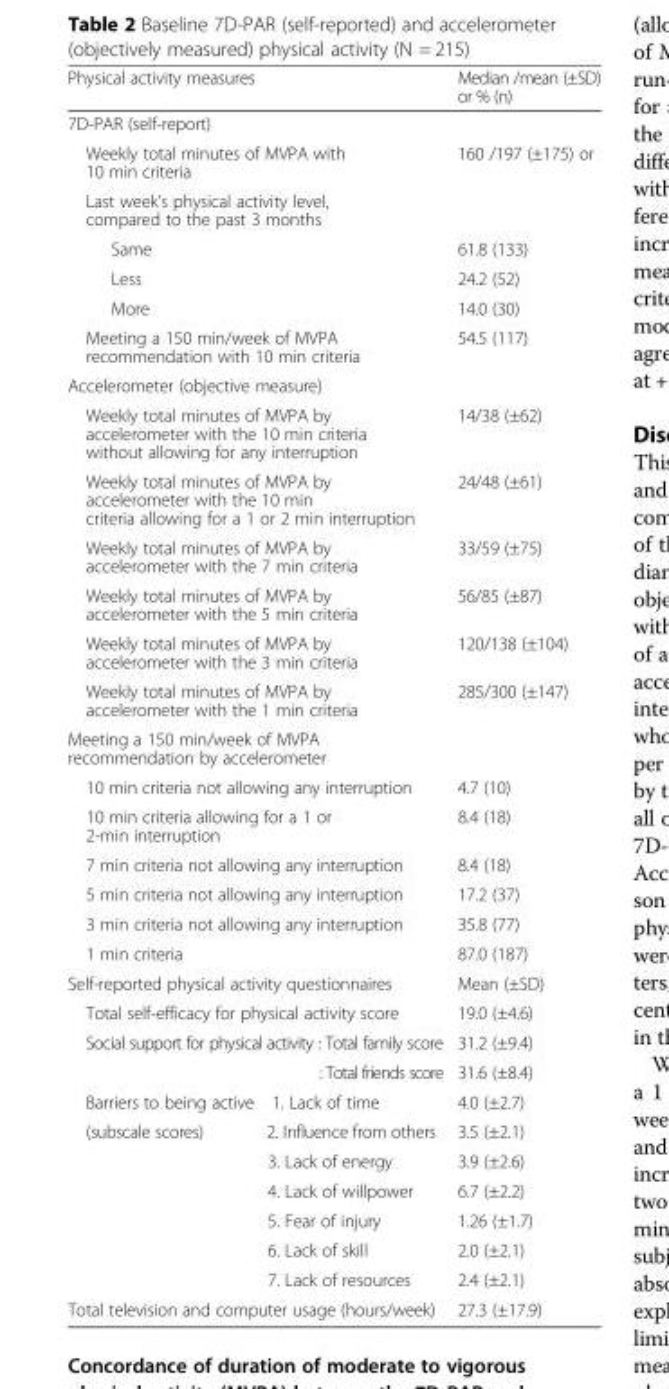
<table><thead><tr><td>Physical activity measures</td><td>Median /mean (±SD) or % (n)</td></tr></thead><tbody><tr><td colspan="2">7D-PAR (self-report)</td></tr><tr><td>Weekly total minutes of MVPA with 10 min criteria</td><td>160 /197 (±175) or</td></tr><tr><td colspan="2">Last week’s physical activity level, compared to the past 3 months</td></tr><tr><td>Same</td><td>61.8 (133)</td></tr><tr><td>Less</td><td>24.2 (52)</td></tr><tr><td>More</td><td>14.0 (30)</td></tr><tr><td>Meeting a 150 min/week of MVPA recommendation with 10 min criteria</td><td>54.5 (117)</td></tr><tr><td colspan="2">Accelerometer (objective measure)</td></tr><tr><td>Weekly total minutes of MVPA by accelerometer with the 10 min criteria without allowing for any interruption</td><td>14/38 (±62)</td></tr><tr><td>Weekly total minutes of MVPA by accelerometer with the 10 min criteria allowing for a 1 or 2 min interruption</td><td>24/48 (±61)</td></tr><tr><td>Weekly total minutes of MVPA by accelerometer with the 7 min criteria</td><td>33/59 (±75)</td></tr><tr><td>Weekly total minutes of MVPA by accelerometer with the 5 min criteria</td><td>56/85 (±87)</td></tr><tr><td>Weekly total minutes of MVPA by accelerometer with the 3 min criteria</td><td>120/138 (±104)</td></tr><tr><td>Weekly total minutes of MVPA by accelerometer with the 1 min criteria</td><td>285/300 (±147)</td></tr><tr><td colspan="2">Meeting a 150 min/week of MVPA recommendation by accelerometer</td></tr><tr><td>10 min criteria not allowing any interruption</td><td>4.7 (10)</td></tr><tr><td>10 min criteria allowing for a 1 or 2-min interruption</td><td>8.4 (18)</td></tr><tr><td>7 min criteria not allowing any interruption</td><td>8.4 (18)</td></tr><tr><td>5 min criteria not allowing any interruption</td><td>17.2 (37)</td></tr><tr><td>3 min criteria not allowing any interruption</td><td>35.8 (77)</td></tr><tr><td>1 min criteria</td><td>87.0 (187)</td></tr><tr><td>Self-reported physical activity questionnaires</td><td>Mean (±SD)</td></tr><tr><td>Total self-efficacy for physical activity score</td><td>19.0 (±4.6)</td></tr><tr><td>Social support for physical activity : Total family score</td><td>31.2 (±9.4)</td></tr><tr><td>: Total friends score</td><td>31.6 (±8.4)</td></tr><tr><td>Barriers to being active 1. Lack of time</td><td>4.0 (±2.7)</td></tr><tr><td>(subscale scores) 2. Influence from others</td><td>3.5 (±2.1)</td></tr><tr><td>3. Lack of energy</td><td>3.9 (±2.6)</td></tr><tr><td>4. Lack of willpower</td><td>6.7 (±2.2)</td></tr><tr><td>5. Fear of injury</td><td>1.26 (±1.7)</td></tr><tr><td>6. Lack of skill</td><td>2.0 (±2.1)</td></tr><tr><td>7. Lack of resources</td><td>2.4 (±2.1)</td></tr><tr><td>Total television and computer usage (hours/week)</td><td>27.3 (±17.9)</td></tr></tbody></table>